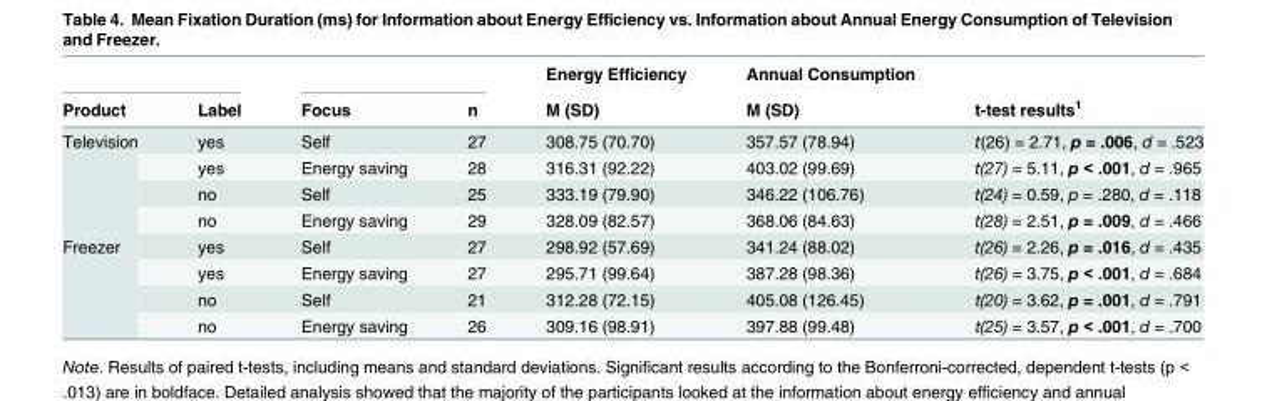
<table><thead><tr><td rowspan="2">Product</td><td rowspan="2">Label</td><td rowspan="2">Focus</td><td rowspan="2">n</td><td rowspan="2">Energy Efficiency M (SD)</td><td rowspan="2">Annual Consumption M (SD)</td><td rowspan="2">t-test results<sup>1</sup></td></tr><tr></tr></thead><tbody><tr><td rowspan="4">Television</td><td>yes</td><td>Self</td><td>27</td><td>308.75 (70.70)</td><td>357.57 (78.94)</td><td>t(26) = 2.71, p = .006, d = .523</td></tr><tr><td>yes</td><td>Energy saving</td><td>28</td><td>316.31 (92.22)</td><td>403.02 (99.69)</td><td>t(27) = 5.11, p &lt; .001, d = .965</td></tr><tr><td>no</td><td>Self</td><td>25</td><td>333.19 (79.90)</td><td>346.22 (106.76)</td><td>t(24) = 0.59, p = .280, d = .118</td></tr><tr><td>no</td><td>Energy saving</td><td>29</td><td>328.09 (82.57)</td><td>368.06 (84.63)</td><td>t(28) = 2.51, p = .009, d = .466</td></tr><tr><td rowspan="4">Freezer</td><td>yes</td><td>Self</td><td>27</td><td>298.92 (57.69)</td><td>341.24 (88.02)</td><td>t(26) = 2.26, p = .016, d = .435</td></tr><tr><td>yes</td><td>Energy saving</td><td>27</td><td>295.71 (99.64)</td><td>387.28 (98.36)</td><td>t(26) = 3.75, p &lt; .001, d = .684</td></tr><tr><td>no</td><td>Self</td><td>21</td><td>312.28 (72.15)</td><td>405.08 (126.45)</td><td>t(20) = 3.62, p = .001, d = .791</td></tr><tr><td>no</td><td>Energy saving</td><td>26</td><td>309.16 (98.91)</td><td>397.88 (99.48)</td><td>t(25) = 3.57, p &lt; .001, d = .700</td></tr></tbody></table>